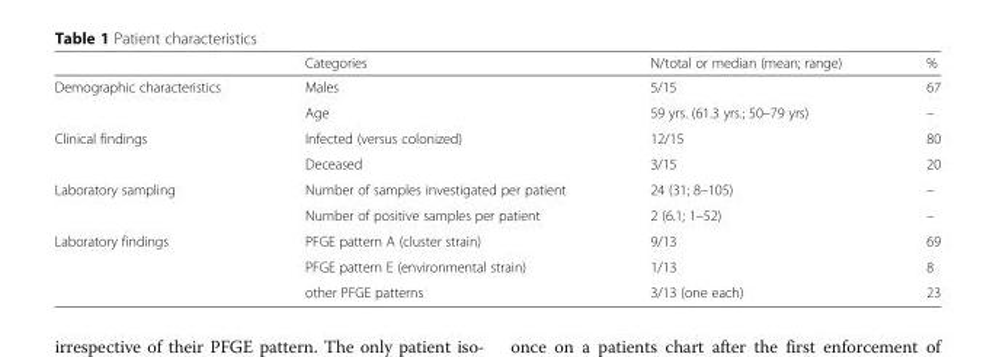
<table><thead><tr><td></td><td>Categories</td><td>N/total or median (mean; range)</td><td>%</td></tr></thead><tbody><tr><td rowspan="2">Demographic characteristics</td><td>Males</td><td>5/15</td><td>67</td></tr><tr><td>Age</td><td>59 yrs. (61.3 yrs.; 50–79 yrs)</td><td>–</td></tr><tr><td rowspan="2">Clinical findings</td><td>Infected (versus colonized)</td><td>12/15</td><td>80</td></tr><tr><td>Deceased</td><td>3/15</td><td>20</td></tr><tr><td rowspan="2">Laboratory sampling</td><td>Number of samples investigated per patient</td><td>24 (31; 8–105)</td><td>–</td></tr><tr><td>Number of positive samples per patient</td><td>2 (6.1; 1–52)</td><td>–</td></tr><tr><td rowspan="3">Laboratory findings</td><td>PFGE pattern A (cluster strain)</td><td>9/13</td><td>69</td></tr><tr><td>PFGE pattern E (environmental strain)</td><td>1/13</td><td>8</td></tr><tr><td>other PFGE patterns</td><td>3/13 (one each)</td><td>23</td></tr></tbody></table>